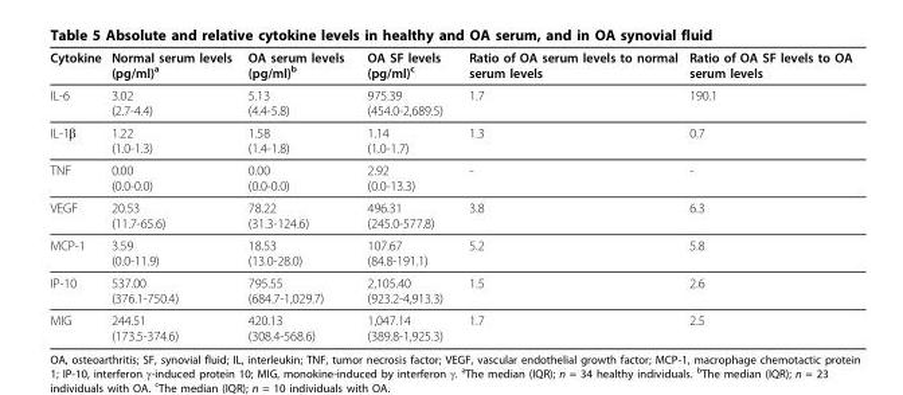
<table><thead><tr><td>Cytokine</td><td>Normal serum levels (pg/ml)<sup>a</sup></td><td>OA serum levels (pg/ml)<sup>b</sup></td><td>OA SF levels (pg/ml)<sup>c</sup></td><td>Ratio of OA serum levels to normal serum levels</td><td>Ratio of OA SF levels to OA serum levels</td></tr></thead><tbody><tr><td>IL-6</td><td>3.02 (2.7-4.4)</td><td>5.13 (4.4-5.8)</td><td>975.39 (454.0-2,689.5)</td><td>1.7</td><td>190.1</td></tr><tr><td>IL-1β</td><td>1.22 (1.0-1.3)</td><td>1.58 (1.4-1.8)</td><td>1.14 (1.0-1.7)</td><td>1.3</td><td>0.7</td></tr><tr><td>TNF</td><td>0.00 (0.0-0.0)</td><td>0.00 (0.0-0.0)</td><td>2.92 (0.0-13.3)</td><td>-</td><td>-</td></tr><tr><td>VEGF</td><td>20.53 (11.7-65.6)</td><td>78.22 (31.3-124.6)</td><td>496.31 (245.0-577.8)</td><td>3.8</td><td>6.3</td></tr><tr><td>MCP-1</td><td>3.59 (0.0-11.9)</td><td>18.53 (13.0-28.0)</td><td>107.67 (84.8-191.1)</td><td>5.2</td><td>5.8</td></tr><tr><td>IP-10</td><td>537.00 (376.1-750.4)</td><td>795.55 (684.7-1,029.7)</td><td>2,105.40 (923.2-4,913.3)</td><td>1.5</td><td>2.6</td></tr><tr><td>MIG</td><td>244.51 (173.5-374.6)</td><td>420.13 (308.4-568.6)</td><td>1,047.14 (389.8-1,925.3)</td><td>1.7</td><td>2.5</td></tr></tbody></table>